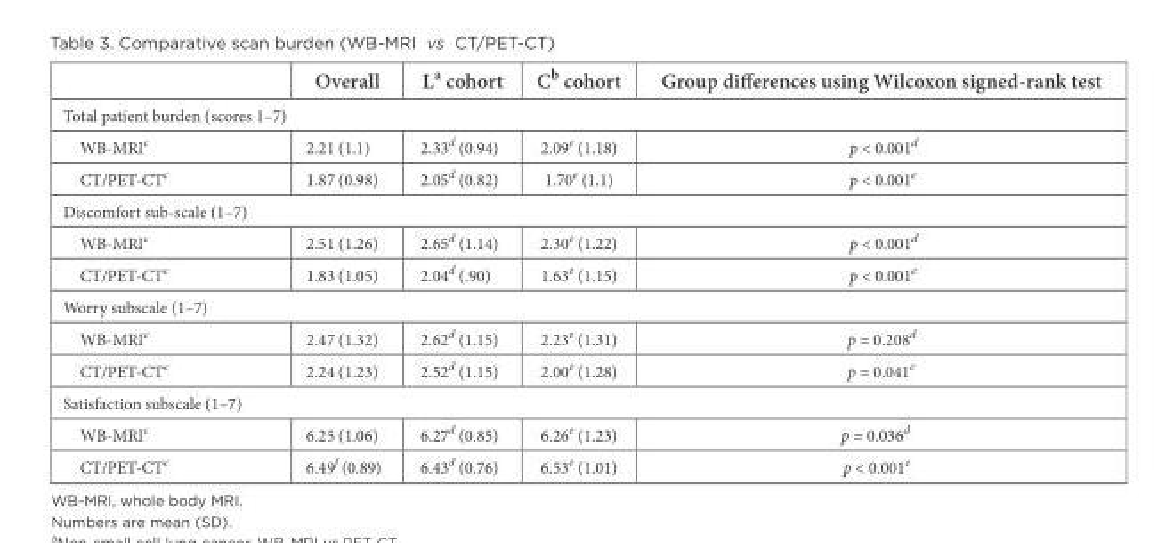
<table><thead><tr><td></td><td>Overall</td><td>L<sup>a</sup> cohort</td><td>C<sup>b</sup> cohort</td><td>Group differences using Wilcoxon signed-rank test</td></tr></thead><tbody><tr><td colspan="5">Total patient burden (scores 1–7)</td></tr><tr><td>WB-MRI<sup>c</sup></td><td>2.21 (1.1)</td><td>2.33d (0.94)</td><td>2.09<sup>e</sup> (1.18)</td><td>p &lt; 0.001d</td></tr><tr><td>CT/PET-CT<sup>c</sup></td><td>1.87 (0.98)</td><td>2.05<sup>d</sup> (0.82)</td><td>1.70<sup>e</sup> (1.1)</td><td>p &lt; 0.001e</td></tr><tr><td colspan="5">Discomfort sub-scale (1–7)</td></tr><tr><td>WB-MRI<sup>c</sup></td><td>2.51 (1.26)</td><td>2.65<sup>d</sup> (1.14)</td><td>2.30<sup>e</sup> (1.22)</td><td>p &lt; 0.001d</td></tr><tr><td>CT/PET-CT<sup>c</sup></td><td>1.83 (1.05)</td><td>2.04d (.90)</td><td>1.63<sup>e</sup> (1.15)</td><td>p &lt; 0.001<sup>e</sup></td></tr><tr><td colspan="5">Worry subscale (1–7)</td></tr><tr><td>WB-MRI<sup>c</sup></td><td>2.47 (1.32)</td><td>2.62d (1.15)</td><td>2.23<sup>e</sup> (1.31)</td><td>p = 0.208d</td></tr><tr><td>CT/PET-CT<sup>c</sup></td><td>2.24 (1.23)</td><td>2.52<sup>d</sup> (1.15)</td><td>2.00<sup>e</sup> (1.28)</td><td>p = 0.041e</td></tr><tr><td colspan="5">Satisfaction subscale (1–7)</td></tr><tr><td>WB-MRI<sup>c</sup></td><td>6.25 (1.06)</td><td>6.27d (0.85)</td><td>6.26<sup>e</sup> (1.23)</td><td>p = 0.036<sup>d</sup></td></tr><tr><td>CT/PET-CT<sup>c</sup></td><td>6.49<sup>f</sup> (0.89)</td><td>6.43d (0.76)</td><td>6.53<sup>e</sup> (1.01)</td><td>p &lt; 0.001<sup>e</sup></td></tr></tbody></table>